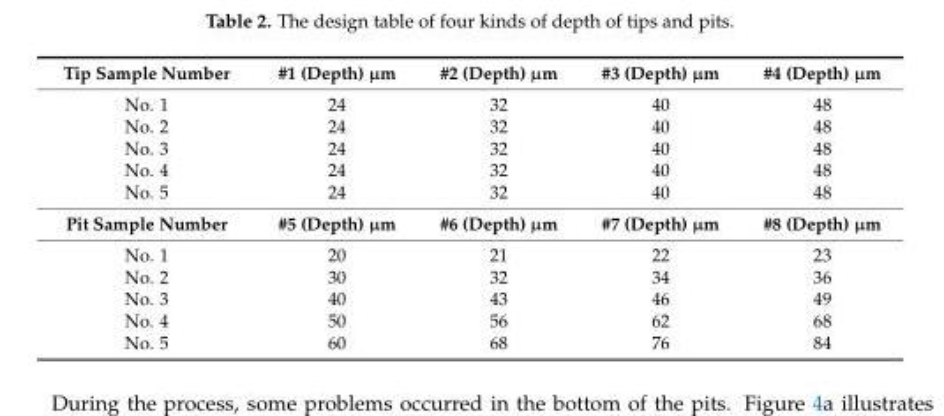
<table><tbody><tr><td>Tip Sample Number</td><td>#1 (Depth) µm</td><td>#2 (Depth) µm</td><td>#3 (Depth) µm</td><td>#4 (Depth) µm</td></tr><tr><td>No. 1</td><td>24</td><td>32</td><td>40</td><td>48</td></tr><tr><td>No. 2</td><td>24</td><td>32</td><td>40</td><td>48</td></tr><tr><td>No. 3</td><td>24</td><td>32</td><td>40</td><td>48</td></tr><tr><td>No. 4</td><td>24</td><td>32</td><td>40</td><td>48</td></tr><tr><td>No. 5</td><td>24</td><td>32</td><td>40</td><td>48</td></tr><tr><td>Pit Sample Number</td><td>#5 (Depth) µm</td><td>#6 (Depth) µm</td><td>#7 (Depth) µm</td><td>#8 (Depth) µm</td></tr><tr><td>No. 1</td><td>20</td><td>21</td><td>22</td><td>23</td></tr><tr><td>No. 2</td><td>30</td><td>32</td><td>34</td><td>36</td></tr><tr><td>No. 3</td><td>40</td><td>43</td><td>46</td><td>49</td></tr><tr><td>No. 4</td><td>50</td><td>56</td><td>62</td><td>68</td></tr><tr><td>No. 5</td><td>60</td><td>68</td><td>76</td><td>84</td></tr></tbody></table>